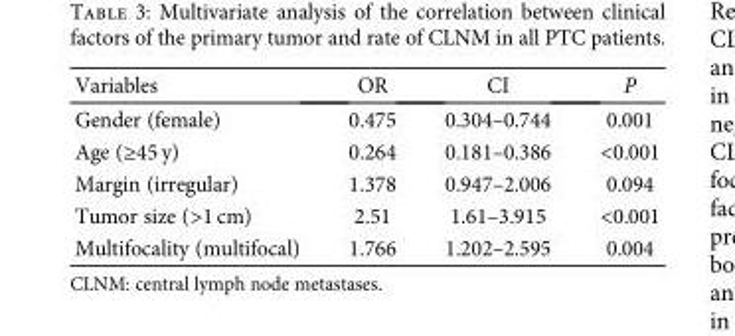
<table><thead><tr><td>Variables</td><td>OR</td><td>CI</td><td>P</td></tr></thead><tbody><tr><td>Gender (female)</td><td>0.475</td><td>0.304–0.744</td><td>0.001</td></tr><tr><td>Age (≥45 y)</td><td>0.264</td><td>0.181–0.386</td><td>&lt;0.001</td></tr><tr><td>Margin (irregular)</td><td>1.378</td><td>0.947–2.006</td><td>0.094</td></tr><tr><td>Tumor size (&gt;1 cm)</td><td>2.51</td><td>1.61–3.915</td><td>&lt;0.001</td></tr><tr><td>Multifocality (multifocal)</td><td>1.766</td><td>1.202–2.595</td><td>0.004</td></tr></tbody></table>